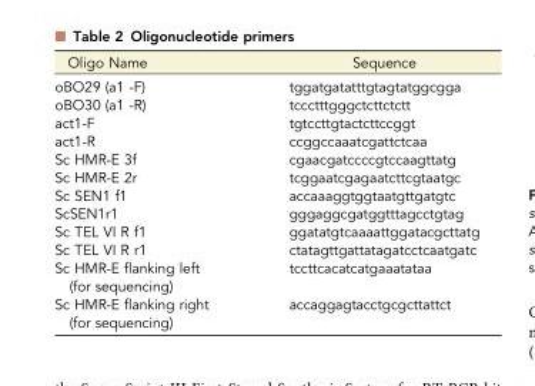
<table><thead><tr><td>Oligo Name</td><td>Sequence</td></tr></thead><tbody><tr><td>oBO29 (a1 -F)</td><td>tggatgatatttgtagtatggcgga</td></tr><tr><td>oBO30 (a1 -R)</td><td>tccctttgggctcttctctt</td></tr><tr><td>act1-F</td><td>tgtccttgtactcttccggt</td></tr><tr><td>act1-R</td><td>ccggccaaatcgattctcaa</td></tr><tr><td>Sc HMR-E 3f</td><td>cgaacgatccccgtccaagttatg</td></tr><tr><td>Sc HMR-E 2r</td><td>tcggaatcgagaatcttcgtaatgc</td></tr><tr><td>Sc SEN1 f1</td><td>accaaaggtggtaatgttgatgtc</td></tr><tr><td>ScSEN1r1</td><td>gggaggcgatggtttagcctgtag</td></tr><tr><td>Sc TEL VI R f1</td><td>ggatatgtcaaaattggatacgcttatg</td></tr><tr><td>Sc TEL VI R r1</td><td>ctatagttgattatagatcctcaatgatc</td></tr><tr><td>Sc HMR-E flanking left (for sequencing)</td><td>tccttcacatcatgaaatataa</td></tr><tr><td>Sc HMR-E flanking right (for sequencing)</td><td>accaggagtacctgcgcttattct</td></tr></tbody></table>